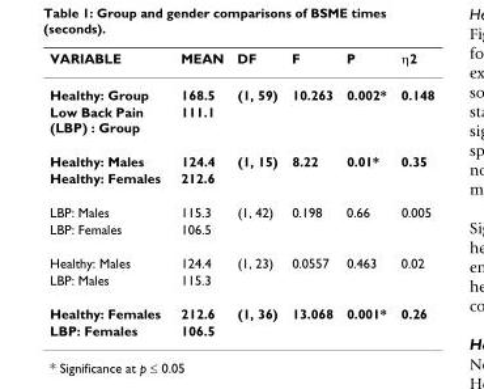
<table><thead><tr><td>VARIABLE</td><td>MEAN</td><td>DF</td><td>F</td><td>P</td><td>η2</td></tr></thead><tbody><tr><td>Healthy: Group</td><td>168.5</td><td>(1, 59)</td><td>10.263</td><td>0.002*</td><td>0.148</td></tr><tr><td>Low Back Pain (LBP) : Group</td><td>111.1</td><td></td><td></td><td></td><td></td></tr><tr><td>Healthy: Males</td><td>124.4</td><td>(1, 15)</td><td>8.22</td><td>0.01*</td><td>0.35</td></tr><tr><td>Healthy: Females</td><td>212.6</td><td></td><td></td><td></td><td></td></tr><tr><td>LBP: Males</td><td>115.3</td><td>(1, 42)</td><td>0.198</td><td>0.66</td><td>0.005</td></tr><tr><td>LBP: Females</td><td>106.5</td><td></td><td></td><td></td><td></td></tr><tr><td>Healthy: Males</td><td>124.4</td><td>(1, 23)</td><td>0.0557</td><td>0.463</td><td>0.02</td></tr><tr><td>LBP: Males</td><td>115.3</td><td></td><td></td><td></td><td></td></tr><tr><td>Healthy: Females</td><td>212.6</td><td>(1, 36)</td><td>13.068</td><td>0.001*</td><td>0.26</td></tr><tr><td>LBP: Females</td><td>106.5</td><td></td><td></td><td></td><td></td></tr></tbody></table>